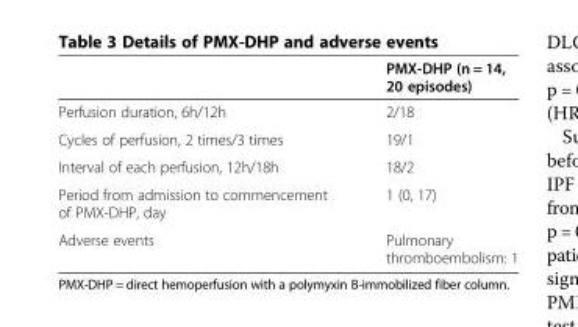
<table><thead><tr><td></td><td>PMX-DHP (n = 14, 20 episodes)</td></tr></thead><tbody><tr><td>Perfusion duration, 6h/12h</td><td>2/18</td></tr><tr><td>Cycles of perfusion, 2 times/3 times</td><td>19/1</td></tr><tr><td>Interval of each perfusion, 12h/18h</td><td>18/2</td></tr><tr><td>Period from admission to commencement of PMX-DHP, day</td><td>1 (0, 17)</td></tr><tr><td>Adverse events</td><td>Pulmonary thromboembolism: 1</td></tr></tbody></table>